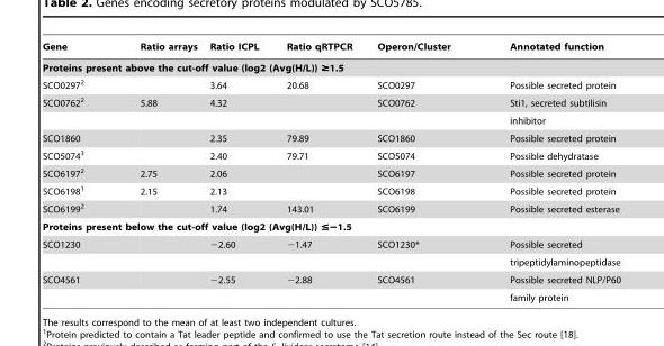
<table><thead><tr><td>Gene</td><td>Ratio arrays</td><td>Ratio ICPL</td><td>Ratio qRTPCR</td><td>Operon/Cluster</td><td>Annotated function</td></tr></thead><tbody><tr><td colspan="6">Proteins present above the cut-off value (log2 (Avg(H/L)) ≥1.5</td></tr><tr><td>SCO0297<sup>2</sup></td><td></td><td>3.64</td><td>20.68</td><td>SCO0297</td><td>Possible secreted protein</td></tr><tr><td rowspan="2">SCO0762<sup>2</sup></td><td>5.88</td><td>4.32</td><td></td><td>SCO0762</td><td>Sti1, secreted subtilisin</td></tr><tr><td></td><td></td><td></td><td></td><td>inhibitor</td></tr><tr><td>SCO1860</td><td></td><td>2.35</td><td>79.89</td><td>SCO1860</td><td>Possible secreted protein</td></tr><tr><td>SCO5074<sup>3</sup></td><td></td><td>2.40</td><td>79.71</td><td>SCO5074</td><td>Possible dehydratase</td></tr><tr><td>SCO6197<sup>2</sup></td><td>2.75</td><td>2.06</td><td></td><td>SCO6197</td><td>Possible secreted protein</td></tr><tr><td>SCO6198<sup>1</sup></td><td>2.15</td><td>2.13</td><td></td><td>SCO6198</td><td>Possible secreted protein</td></tr><tr><td>SCO6199<sup>2</sup></td><td></td><td>1.74</td><td>143.01</td><td>SCO6199</td><td>Possible secreted esterase</td></tr><tr><td colspan="6">Proteins present below the cut-off value (log2 (Avg(H/L)) ≤−1.5</td></tr><tr><td rowspan="2">SCO1230</td><td></td><td>−2.60</td><td>−1.47</td><td>SCO1230*</td><td>Possible secreted</td></tr><tr><td></td><td></td><td></td><td></td><td>tripeptidylaminopeptidase</td></tr><tr><td rowspan="2">SCO4561</td><td></td><td>−2.55</td><td>−2.88</td><td>SCO4561</td><td>Possible secreted NLP/P60</td></tr><tr><td></td><td></td><td></td><td></td><td>family protein</td></tr></tbody></table>